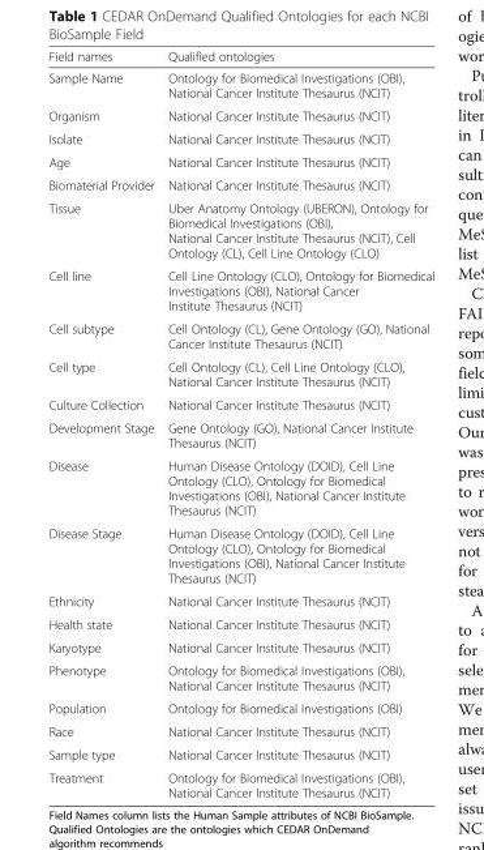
<table><thead><tr><td>Field names</td><td>Qualified ontologies</td></tr></thead><tbody><tr><td>Sample Name</td><td>Ontology for Biomedical Investigations (OBI), National Cancer Institute Thesaurus (NCIT)</td></tr><tr><td>Organism</td><td>National Cancer Institute Thesaurus (NCIT)</td></tr><tr><td>Isolate</td><td>National Cancer Institute Thesaurus (NCIT)</td></tr><tr><td>Age</td><td>National Cancer Institute Thesaurus (NCIT)</td></tr><tr><td>Biomaterial Provider</td><td>National Cancer Institute Thesaurus (NCIT)</td></tr><tr><td>Tissue</td><td>Uber Anatomy Ontology (UBERON), Ontology for Biomedical Investigations (OBI), National Cancer Institute Thesaurus (NCIT), Cell Ontology (CL), Cell Line Ontology (CLO)</td></tr><tr><td>Cell line</td><td>Cell Line Ontology (CLO), Ontology for Biomedical Investigations (OBI), National Cancer Institute Thesaurus (NCIT)</td></tr><tr><td>Cell subtype</td><td>Cell Ontology (CL), Gene Ontology (GO), National Cancer Institute Thesaurus (NCIT)</td></tr><tr><td>Cell type</td><td>Cell Ontology (CL), Cell Line Ontology (CLO), National Cancer Institute Thesaurus (NCIT)</td></tr><tr><td>Culture Collection</td><td>National Cancer Institute Thesaurus (NCIT)</td></tr><tr><td>Development Stage</td><td>Gene Ontology (GO), National Cancer Institute Thesaurus (NCIT)</td></tr><tr><td>Disease</td><td>Human Disease Ontology (DOID), Cell Line Ontology (CLO), Ontology for Biomedical Investigations (OBI), National Cancer Institute Thesaurus (NCIT)</td></tr><tr><td>Disease Stage</td><td>Human Disease Ontology (DOID), Cell Line Ontology (CLO), Ontology for Biomedical Investigations (OBI), National Cancer Institute Thesaurus (NCIT)</td></tr><tr><td>Ethnicity</td><td>National Cancer Institute Thesaurus (NCIT)</td></tr><tr><td>Health state</td><td>National Cancer Institute Thesaurus (NCIT)</td></tr><tr><td>Karyotype</td><td>National Cancer Institute Thesaurus (NCIT)</td></tr><tr><td>Phenotype</td><td>Ontology for Biomedical Investigations (OBI), National Cancer Institute Thesaurus (NCIT)</td></tr><tr><td>Population</td><td>Ontology for Biomedical Investigations (OBI)</td></tr><tr><td>Race</td><td>National Cancer Institute Thesaurus (NCIT)</td></tr><tr><td>Sample type</td><td>National Cancer Institute Thesaurus (NCIT)</td></tr><tr><td>Treatment</td><td>Ontology for Biomedical Investigations (OBI), National Cancer Institute Thesaurus (NCIT)</td></tr></tbody></table>